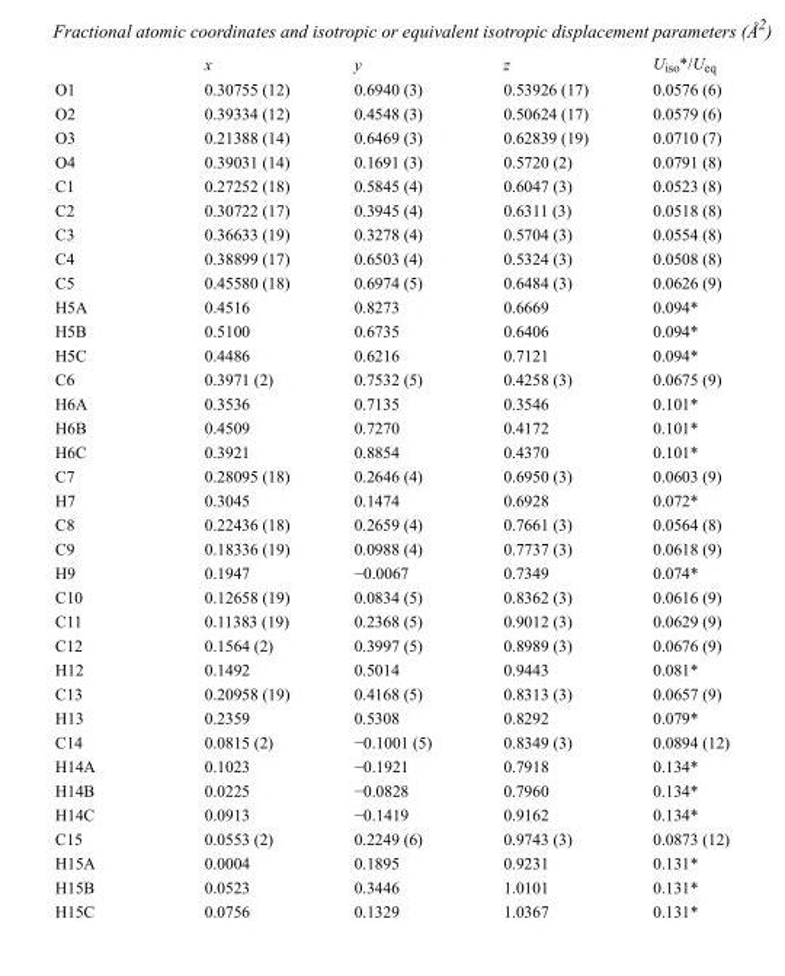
<table><thead><tr><td></td><td>x</td><td>y</td><td>z</td><td>U<sub>iso</sub>*/U<sub>eq</sub></td></tr></thead><tbody><tr><td>O1</td><td>0.30755 (12)</td><td>0.6940 (3)</td><td>0.53926 (17)</td><td>0.0576 (6)</td></tr><tr><td>O2</td><td>0.39334 (12)</td><td>0.4548 (3)</td><td>0.50624 (17)</td><td>0.0579 (6)</td></tr><tr><td>O3</td><td>0.21388 (14)</td><td>0.6469 (3)</td><td>0.62839 (19)</td><td>0.0710 (7)</td></tr><tr><td>O4</td><td>0.39031 (14)</td><td>0.1691 (3)</td><td>0.5720 (2)</td><td>0.0791 (8)</td></tr><tr><td>C1</td><td>0.27252 (18)</td><td>0.5845 (4)</td><td>0.6047 (3)</td><td>0.0523 (8)</td></tr><tr><td>C2</td><td>0.30722 (17)</td><td>0.3945 (4)</td><td>0.6311 (3)</td><td>0.0518 (8)</td></tr><tr><td>C3</td><td>0.36633 (19)</td><td>0.3278 (4)</td><td>0.5704 (3)</td><td>0.0554 (8)</td></tr><tr><td>C4</td><td>0.38899 (17)</td><td>0.6503 (4)</td><td>0.5324 (3)</td><td>0.0508 (8)</td></tr><tr><td>C5</td><td>0.45580 (18)</td><td>0.6974 (5)</td><td>0.6484 (3)</td><td>0.0626 (9)</td></tr><tr><td>H5A</td><td>0.4516</td><td>0.8273</td><td>0.6669</td><td>0.094*</td></tr><tr><td>H5B</td><td>0.5100</td><td>0.6735</td><td>0.6406</td><td>0.094*</td></tr><tr><td>H5C</td><td>0.4486</td><td>0.6216</td><td>0.7121</td><td>0.094*</td></tr><tr><td>C6</td><td>0.3971 (2)</td><td>0.7532 (5)</td><td>0.4258 (3)</td><td>0.0675 (9)</td></tr><tr><td>H6A</td><td>0.3536</td><td>0.7135</td><td>0.3546</td><td>0.101*</td></tr><tr><td>H6B</td><td>0.4509</td><td>0.7270</td><td>0.4172</td><td>0.101*</td></tr><tr><td>H6C</td><td>0.3921</td><td>0.8854</td><td>0.4370</td><td>0.101*</td></tr><tr><td>C7</td><td>0.28095 (18)</td><td>0.2646 (4)</td><td>0.6950 (3)</td><td>0.0603 (9)</td></tr><tr><td>H7</td><td>0.3045</td><td>0.1474</td><td>0.6928</td><td>0.072*</td></tr><tr><td>C8</td><td>0.22436 (18)</td><td>0.2659 (4)</td><td>0.7661 (3)</td><td>0.0564 (8)</td></tr><tr><td>C9</td><td>0.18336 (19)</td><td>0.0988 (4)</td><td>0.7737 (3)</td><td>0.0618 (9)</td></tr><tr><td>H9</td><td>0.1947</td><td>−0.0067</td><td>0.7349</td><td>0.074*</td></tr><tr><td>C10</td><td>0.12658 (19)</td><td>0.0834 (5)</td><td>0.8362 (3)</td><td>0.0616 (9)</td></tr><tr><td>C11</td><td>0.11383 (19)</td><td>0.2368 (5)</td><td>0.9012 (3)</td><td>0.0629 (9)</td></tr><tr><td>C12</td><td>0.1564 (2)</td><td>0.3997 (5)</td><td>0.8989 (3)</td><td>0.0676 (9)</td></tr><tr><td>H12</td><td>0.1492</td><td>0.5014</td><td>0.9443</td><td>0.081*</td></tr><tr><td>C13</td><td>0.20958 (19)</td><td>0.4168 (5)</td><td>0.8313 (3)</td><td>0.0657 (9)</td></tr><tr><td>H13</td><td>0.2359</td><td>0.5308</td><td>0.8292</td><td>0.079*</td></tr><tr><td>C14</td><td>0.0815 (2)</td><td>−0.1001 (5)</td><td>0.8349 (3)</td><td>0.0894 (12)</td></tr><tr><td>H14A</td><td>0.1023</td><td>−0.1921</td><td>0.7918</td><td>0.134*</td></tr><tr><td>H14B</td><td>0.0225</td><td>−0.0828</td><td>0.7960</td><td>0.134*</td></tr><tr><td>H14C</td><td>0.0913</td><td>−0.1419</td><td>0.9162</td><td>0.134*</td></tr><tr><td>C15</td><td>0.0553 (2)</td><td>0.2249 (6)</td><td>0.9743 (3)</td><td>0.0873 (12)</td></tr><tr><td>H15A</td><td>0.0004</td><td>0.1895</td><td>0.9231</td><td>0.131*</td></tr><tr><td>H15B</td><td>0.0523</td><td>0.3446</td><td>1.0101</td><td>0.131*</td></tr><tr><td>H15C</td><td>0.0756</td><td>0.1329</td><td>1.0367</td><td>0.131*</td></tr></tbody></table>